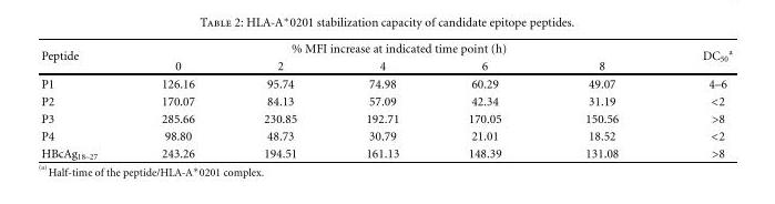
<table><thead><tr><td rowspan="2">Peptide</td><td colspan="5">% MFI increase at indicated time point (h)</td><td rowspan="2">DC<sub>50</sub> <sup>a</sup></td></tr><tr><td>0</td><td>2</td><td>4</td><td>6</td><td>8</td></tr></thead><tbody><tr><td>P1</td><td>126.16</td><td>95.74</td><td>74.98</td><td>60.29</td><td>49.07</td><td>4–6</td></tr><tr><td>P2</td><td>170.07</td><td>84.13</td><td>57.09</td><td>42.34</td><td>31.19</td><td>&lt;2</td></tr><tr><td>P3</td><td>285.66</td><td>230.85</td><td>192.71</td><td>170.05</td><td>150.56</td><td>&gt;8</td></tr><tr><td>P4</td><td>98.80</td><td>48.73</td><td>30.79</td><td>21.01</td><td>18.52</td><td>&lt;2</td></tr><tr><td>HBcAg<sub>18–27</sub></td><td>243.26</td><td>194.51</td><td>161.13</td><td>148.39</td><td>131.08</td><td>&gt;8</td></tr></tbody></table>